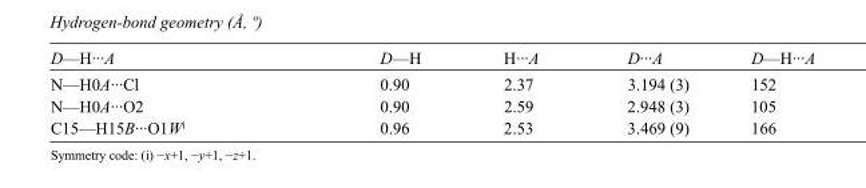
<table><tbody><tr><td>D—H···A</td><td>D—H</td><td>H···A</td><td>D···A</td><td>D—H···A</td></tr><tr><td>N—H0A···Cl</td><td>0.90</td><td>2.37</td><td>3.194 (3)</td><td>152</td></tr><tr><td>N—H0A···O2</td><td>0.90</td><td>2.59</td><td>2.948 (3)</td><td>105</td></tr><tr><td>C15—H15B···O1W<sup>i</sup></td><td>0.96</td><td>2.53</td><td>3.469 (9)</td><td>166</td></tr></tbody></table>